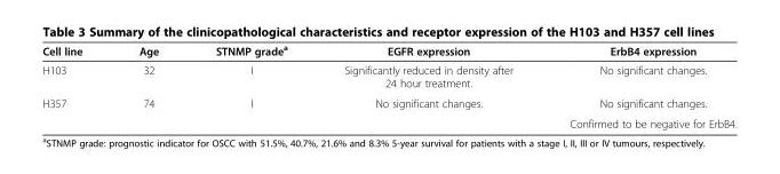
<table><thead><tr><td>Cell line</td><td>Age</td><td>STNMP grade<sup>a</sup></td><td>EGFR expression</td><td>ErbB4 expression</td></tr></thead><tbody><tr><td>H103</td><td>32</td><td>I</td><td>Significantly reduced in density after 24 hour treatment.</td><td>No significant changes.</td></tr><tr><td rowspan="2">H357</td><td rowspan="2">74</td><td rowspan="2">I</td><td rowspan="2">No significant changes.</td><td>No significant changes.</td></tr><tr><td>Confirmed to be negative for ErbB4.</td></tr></tbody></table>